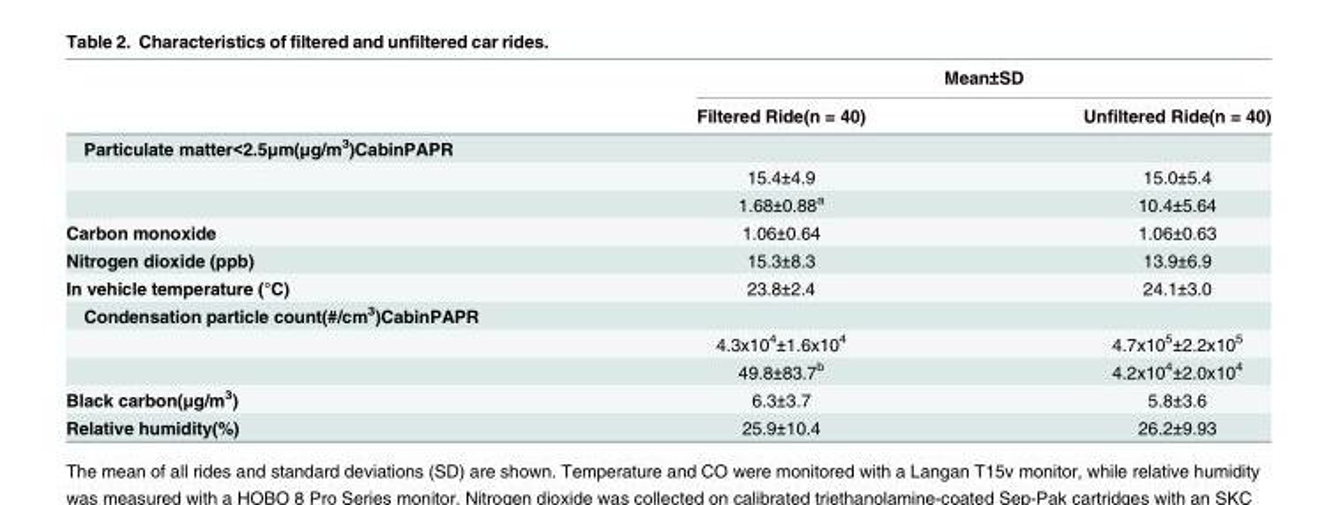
<table><thead><tr><td rowspan="2"></td><td colspan="2">Mean±SD</td></tr><tr><td>Filtered Ride(n = 40)</td><td>Unfiltered Ride(n = 40)</td></tr></thead><tbody><tr><td colspan="3">Particulate matter&lt;2.5μm(μg/m<sup>3</sup>)CabinPAPR</td></tr><tr><td></td><td>15.4±4.9</td><td>15.0±5.4</td></tr><tr><td></td><td>1.68±0.88<sup>a</sup></td><td>10.4±5.64</td></tr><tr><td>Carbon monoxide</td><td>1.06±0.64</td><td>1.06±0.63</td></tr><tr><td>Nitrogen dioxide (ppb)</td><td>15.3±8.3</td><td>13.9±6.9</td></tr><tr><td>In vehicle temperature (°C)</td><td>23.8±2.4</td><td>24.1±3.0</td></tr><tr><td colspan="3">Condensation particle count(#/cm<sup>3</sup>)CabinPAPR</td></tr><tr><td></td><td>4.3x10<sup>4</sup>±1.6x10<sup>4</sup></td><td>4.7x10<sup>5</sup>±2.2x10<sup>5</sup></td></tr><tr><td></td><td>49.8±83.7<sup>b</sup></td><td>4.2x10<sup>4</sup>±2.0x10<sup>4</sup></td></tr><tr><td>Black carbon(μg/m<sup>3</sup>)</td><td>6.3±3.7</td><td>5.8±3.6</td></tr><tr><td>Relative humidity(%)</td><td>25.9±10.4</td><td>26.2±9.93</td></tr></tbody></table>